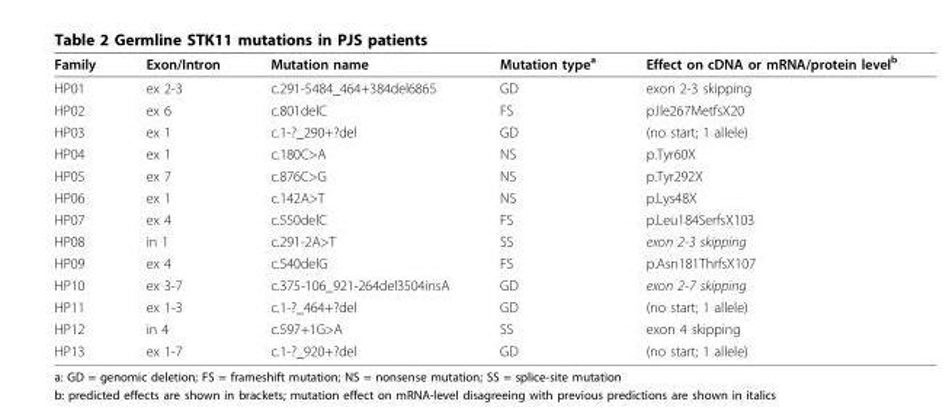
<table><thead><tr><td>Family</td><td>Exon/Intron</td><td>Mutation name</td><td>Mutation type<sup>a</sup></td><td>Effect on cDNA or mRNA/protein level<sup>b</sup></td></tr></thead><tbody><tr><td>HP01</td><td>ex 2-3</td><td>c.291-5484_464+384del6865</td><td>GD</td><td>exon 2-3 skipping</td></tr><tr><td>HP02</td><td>ex 6</td><td>c.801delC</td><td>FS</td><td>p.Ile267MetfsX20</td></tr><tr><td>HP03</td><td>ex 1</td><td>c.1-?_290+?del</td><td>GD</td><td>(no start; 1 allele)</td></tr><tr><td>HP04</td><td>ex 1</td><td>c.180C&gt;A</td><td>NS</td><td>p.Tyr60X</td></tr><tr><td>HP05</td><td>ex 7</td><td>c.876C&gt;G</td><td>NS</td><td>p.Tyr292X</td></tr><tr><td>HP06</td><td>ex 1</td><td>c.142A&gt;T</td><td>NS</td><td>p.Lys48X</td></tr><tr><td>HP07</td><td>ex 4</td><td>c.550delC</td><td>FS</td><td>p.Leu184SerfsX103</td></tr><tr><td>HP08</td><td>in 1</td><td>c.291-2A&gt;T</td><td>SS</td><td>exon 2-3 skipping</td></tr><tr><td>HP09</td><td>ex 4</td><td>c.540delG</td><td>FS</td><td>p.Asn181ThrfsX107</td></tr><tr><td>HP10</td><td>ex 3-7</td><td>c.375-106_921-264del3504insA</td><td>GD</td><td>exon 2-7 skipping</td></tr><tr><td>HP11</td><td>ex 1-3</td><td>c.1-?_464+?del</td><td>GD</td><td>(no start; 1 allele)</td></tr><tr><td>HP12</td><td>in 4</td><td>c.597+1G&gt;A</td><td>SS</td><td>exon 4 skipping</td></tr><tr><td>HP13</td><td>ex 1-7</td><td>c.1-?_920+?del</td><td>GD</td><td>(no start; 1 allele)</td></tr></tbody></table>